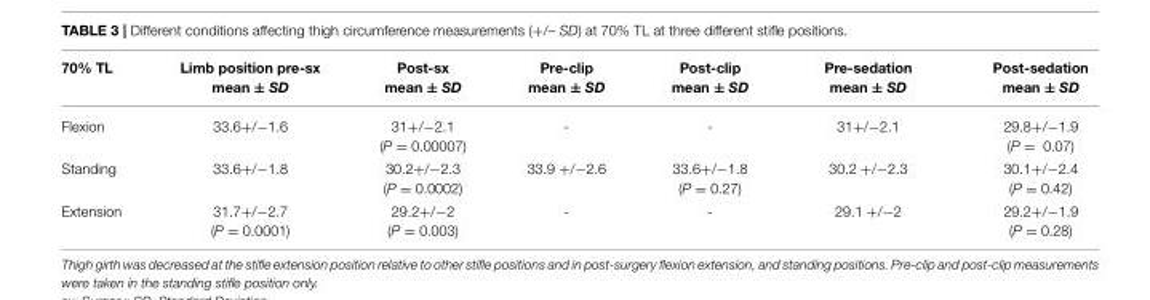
<table><thead><tr><td>70% TL</td><td>Limb position pre-sx mean ± SD</td><td>Post-sx mean ± SD</td><td>Pre-clip mean ± SD</td><td>Post-clip mean ± SD</td><td>Pre-sedation mean ± SD</td><td>Post-sedation mean ± SD</td></tr></thead><tbody><tr><td>Flexion</td><td>33.6+/−1.6</td><td>31+/−2.1 (P = 0.00007)</td><td>-</td><td>-</td><td>31+/−2.1</td><td>29.8+/−1.9 (P = 0.07)</td></tr><tr><td>Standing</td><td>33.6+/−1.8</td><td>30.2+/−2.3 (P = 0.0002)</td><td>33.9 +/−2.6</td><td>33.6+/−1.8 (P = 0.27)</td><td>30.2 +/−2.3</td><td>30.1+/−2.4 (P = 0.42)</td></tr><tr><td>Extension</td><td>31.7+/−2.7 (P = 0.0001)</td><td>29.2+/−2 (P = 0.003)</td><td>-</td><td>-</td><td>29.1 +/−2</td><td>29.2+/−1.9 (P = 0.28)</td></tr></tbody></table>